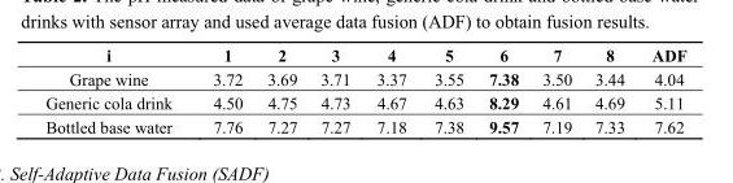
<table><thead><tr><td>i</td><td>1</td><td>2</td><td>3</td><td>4</td><td>5</td><td>6</td><td>7</td><td>8</td><td>ADF</td></tr></thead><tbody><tr><td>Grape wine</td><td>3.72</td><td>3.69</td><td>3.71</td><td>3.37</td><td>3.55</td><td>7.38</td><td>3.50</td><td>3.44</td><td>4.04</td></tr><tr><td>Generic cola drink</td><td>4.50</td><td>4.75</td><td>4.73</td><td>4.67</td><td>4.63</td><td>8.29</td><td>4.61</td><td>4.69</td><td>5.11</td></tr><tr><td>Bottled base water</td><td>7.76</td><td>7.27</td><td>7.27</td><td>7.18</td><td>7.38</td><td>9.57</td><td>7.19</td><td>7.33</td><td>7.62</td></tr></tbody></table>